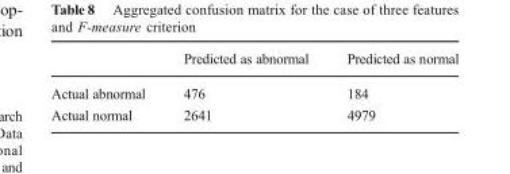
<table><thead><tr><td></td><td>Predicted as abnormal</td><td>Predicted as normal</td></tr></thead><tbody><tr><td>Actual abnormal</td><td>476</td><td>184</td></tr><tr><td>Actual normal</td><td>2641</td><td>4979</td></tr></tbody></table>